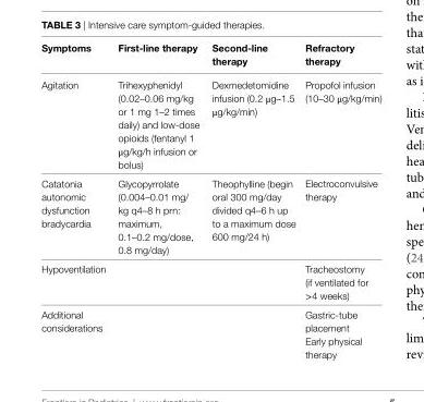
<table><thead><tr><td>Symptoms</td><td>First-line therapy</td><td>Second-line therapy</td><td>Refractory therapy</td></tr></thead><tbody><tr><td>Agitation</td><td>Trihexyphenidyl (0.02–0.06 mg/kg or 1 mg 1–2 times daily) and low-dose opioids (fentanyl 1 μg/kg/h infusion or bolus)</td><td>Dexmedetomidine infusion (0.2 μg–1.5 μg/kg/min)</td><td>Propofol infusion (10–30 μg/kg/min)</td></tr><tr><td>Catatonia autonomic dysfunction bradycardia</td><td>Glycopyrrolate (0.004–0.01 mg/ kg q4–8 h prn: maximum, 0.1–0.2 mg/dose, 0.8 mg/day)</td><td>Theophylline (begin oral 300 mg/day divided q4–6 h up to a maximum dose 600 mg/24 h)</td><td>Electroconvulsive therapy</td></tr><tr><td>Hypoventilation</td><td></td><td></td><td>Tracheostomy (if ventilated for &gt;4 weeks)</td></tr><tr><td rowspan="2">Additional considerations</td><td rowspan="2"></td><td rowspan="2"></td><td>Gastric-tube placement</td></tr><tr><td>Early physical therapy</td></tr></tbody></table>